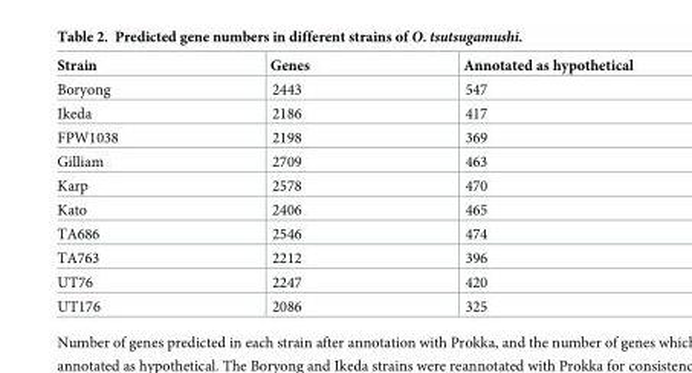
<table><thead><tr><td>Strain</td><td>Genes</td><td>Annotated as hypothetical</td></tr></thead><tbody><tr><td>Boryong</td><td>2443</td><td>547</td></tr><tr><td>Ikeda</td><td>2186</td><td>417</td></tr><tr><td>FPW1038</td><td>2198</td><td>369</td></tr><tr><td>Gilliam</td><td>2709</td><td>463</td></tr><tr><td>Karp</td><td>2578</td><td>470</td></tr><tr><td>Kato</td><td>2406</td><td>465</td></tr><tr><td>TA686</td><td>2546</td><td>474</td></tr><tr><td>TA763</td><td>2212</td><td>396</td></tr><tr><td>UT76</td><td>2247</td><td>420</td></tr><tr><td>UT176</td><td>2086</td><td>325</td></tr></tbody></table>